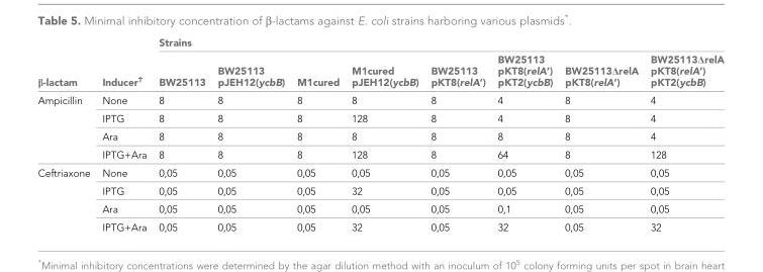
<table><thead><tr><td rowspan="2">β-lactam</td><td rowspan="2">Inducer<sup>†</sup></td><td colspan="8">Strains</td></tr><tr><td>BW25113</td><td>BW25113 pJEH12(ycbB)</td><td>M1cured</td><td>M1cured pJEH12(ycbB)</td><td>BW25113 pKT8(relA’)</td><td>BW25113 pKT8(relA’) pKT2(ycbB)</td><td>BW25113ΔrelA pKT8(relA’)</td><td>BW25113ΔrelA pKT8(relA’) pKT2(ycbB)</td></tr></thead><tbody><tr><td rowspan="4">Ampicillin</td><td>None</td><td>8</td><td>8</td><td>8</td><td>8</td><td>8</td><td>4</td><td>8</td><td>4</td></tr><tr><td>IPTG</td><td>8</td><td>8</td><td>8</td><td>128</td><td>8</td><td>4</td><td>8</td><td>4</td></tr><tr><td>Ara</td><td>8</td><td>8</td><td>8</td><td>8</td><td>8</td><td>8</td><td>8</td><td>4</td></tr><tr><td>IPTG+Ara</td><td>8</td><td>8</td><td>8</td><td>128</td><td>8</td><td>64</td><td>8</td><td>128</td></tr><tr><td rowspan="4">Ceftriaxone</td><td>None</td><td>0,05</td><td>0,05</td><td>0,05</td><td>0,05</td><td>0,05</td><td>0,05</td><td>0,05</td><td>0,05</td></tr><tr><td>IPTG</td><td>0,05</td><td>0,05</td><td>0,05</td><td>32</td><td>0,05</td><td>0,05</td><td>0,05</td><td>0,05</td></tr><tr><td>Ara</td><td>0,05</td><td>0,05</td><td>0,05</td><td>0,05</td><td>0,05</td><td>0,1</td><td>0,05</td><td>0,05</td></tr><tr><td>IPTG+Ara</td><td>0,05</td><td>0,05</td><td>0,05</td><td>32</td><td>0,05</td><td>32</td><td>0,05</td><td>32</td></tr></tbody></table>